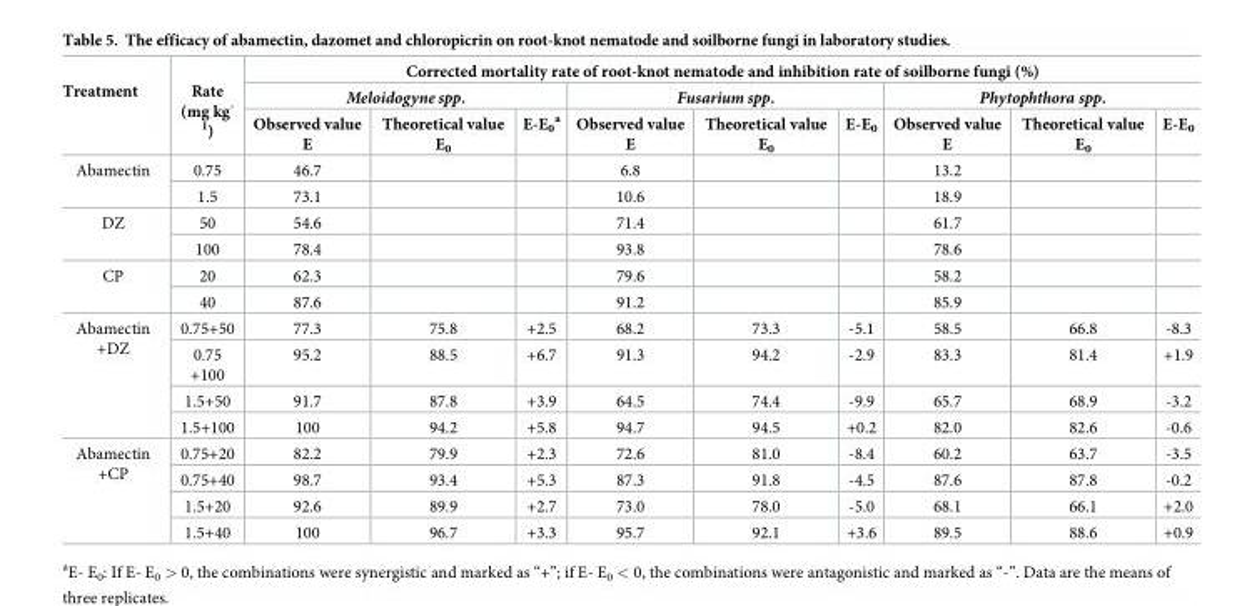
<table><thead><tr><td rowspan="3">Treatment</td><td rowspan="3">Rate (mg kg<sup>- 1</sup>)</td><td colspan="9">Corrected mortality rate of root-knot nematode and inhibition rate of soilborne fungi (%)</td></tr><tr><td colspan="3">Meloidogyne spp.</td><td colspan="3">Fusarium spp.</td><td colspan="3">Phytophthora spp.</td></tr><tr><td>Observed value E</td><td>Theoretical value E<sub>0</sub></td><td>E-E<sub>0</sub> <sup>a</sup></td><td>Observed value E</td><td>Theoretical value E<sub>0</sub></td><td>E-E<sub>0</sub></td><td>Observed value E</td><td>Theoretical value E<sub>0</sub></td><td>E-E<sub>0</sub></td></tr></thead><tbody><tr><td rowspan="2">Abamectin</td><td>0.75</td><td>46.7</td><td></td><td></td><td>6.8</td><td></td><td></td><td>13.2</td><td></td><td></td></tr><tr><td>1.5</td><td>73.1</td><td></td><td></td><td>10.6</td><td></td><td></td><td>18.9</td><td></td><td></td></tr><tr><td rowspan="2">DZ</td><td>50</td><td>54.6</td><td></td><td></td><td>71.4</td><td></td><td></td><td>61.7</td><td></td><td></td></tr><tr><td>100</td><td>78.4</td><td></td><td></td><td>93.8</td><td></td><td></td><td>78.6</td><td></td><td></td></tr><tr><td rowspan="2">CP</td><td>20</td><td>62.3</td><td></td><td></td><td>79.6</td><td></td><td></td><td>58.2</td><td></td><td></td></tr><tr><td>40</td><td>87.6</td><td></td><td></td><td>91.2</td><td></td><td></td><td>85.9</td><td></td><td></td></tr><tr><td rowspan="4">Abamectin +DZ</td><td>0.75+50</td><td>77.3</td><td>75.8</td><td>+2.5</td><td>68.2</td><td>73.3</td><td>-5.1</td><td>58.5</td><td>66.8</td><td>-8.3</td></tr><tr><td>0.75 +100</td><td>95.2</td><td>88.5</td><td>+6.7</td><td>91.3</td><td>94.2</td><td>-2.9</td><td>83.3</td><td>81.4</td><td>+1.9</td></tr><tr><td>1.5+50</td><td>91.7</td><td>87.8</td><td>+3.9</td><td>64.5</td><td>74.4</td><td>-9.9</td><td>65.7</td><td>68.9</td><td>-3.2</td></tr><tr><td>1.5+100</td><td>100</td><td>94.2</td><td>+5.8</td><td>94.7</td><td>94.5</td><td>+0.2</td><td>82.0</td><td>82.6</td><td>-0.6</td></tr><tr><td rowspan="4">Abamectin +CP</td><td>0.75+20</td><td>82.2</td><td>79.9</td><td>+2.3</td><td>72.6</td><td>81.0</td><td>-8.4</td><td>60.2</td><td>63.7</td><td>-3.5</td></tr><tr><td>0.75+40</td><td>98.7</td><td>93.4</td><td>+5.3</td><td>87.3</td><td>91.8</td><td>-4.5</td><td>87.6</td><td>87.8</td><td>-0.2</td></tr><tr><td>1.5+20</td><td>92.6</td><td>89.9</td><td>+2.7</td><td>73.0</td><td>78.0</td><td>-5.0</td><td>68.1</td><td>66.1</td><td>+2.0</td></tr><tr><td>1.5+40</td><td>100</td><td>96.7</td><td>+3.3</td><td>95.7</td><td>92.1</td><td>+3.6</td><td>89.5</td><td>88.6</td><td>+0.9</td></tr></tbody></table>